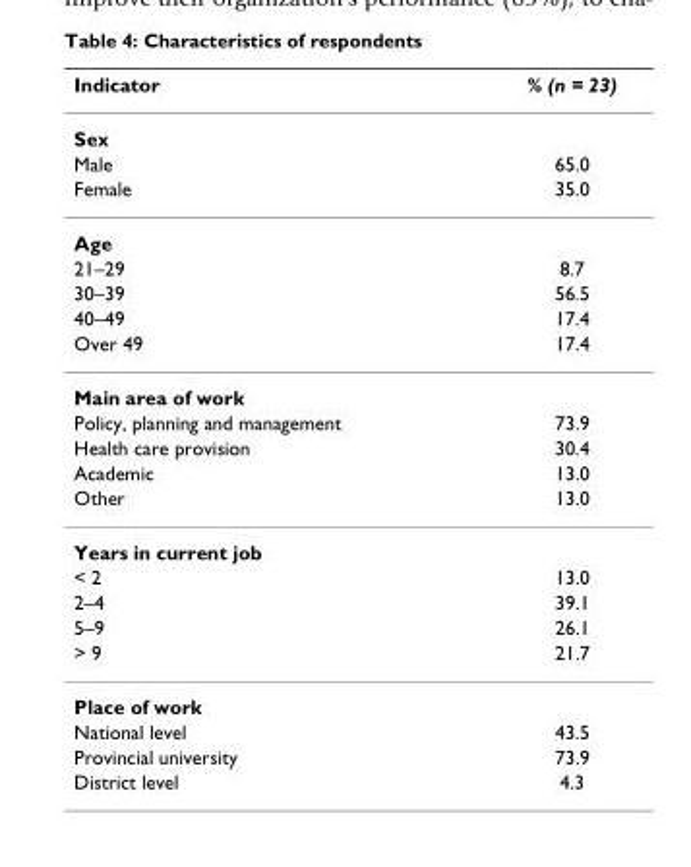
<table><thead><tr><td>Indicator</td><td>% (n = 23)</td></tr></thead><tbody><tr><td colspan="2">Sex</td></tr><tr><td>Male</td><td>65.0</td></tr><tr><td>Female</td><td>35.0</td></tr><tr><td colspan="2">Age</td></tr><tr><td>21–29</td><td>8.7</td></tr><tr><td>30–39</td><td>56.5</td></tr><tr><td>40–49</td><td>17.4</td></tr><tr><td>Over 49</td><td>17.4</td></tr><tr><td colspan="2">Main area of work</td></tr><tr><td>Policy, planning and management</td><td>73.9</td></tr><tr><td>Health care provision</td><td>30.4</td></tr><tr><td>Academic</td><td>13.0</td></tr><tr><td>Other</td><td>13.0</td></tr><tr><td colspan="2">Years in current job</td></tr><tr><td>&lt; 2</td><td>13.0</td></tr><tr><td>2–4</td><td>39.1</td></tr><tr><td>5–9</td><td>26.1</td></tr><tr><td>&gt; 9</td><td>21.7</td></tr><tr><td colspan="2">Place of work</td></tr><tr><td>National level</td><td>43.5</td></tr><tr><td>Provincial university</td><td>73.9</td></tr><tr><td>District level</td><td>4.3</td></tr></tbody></table>